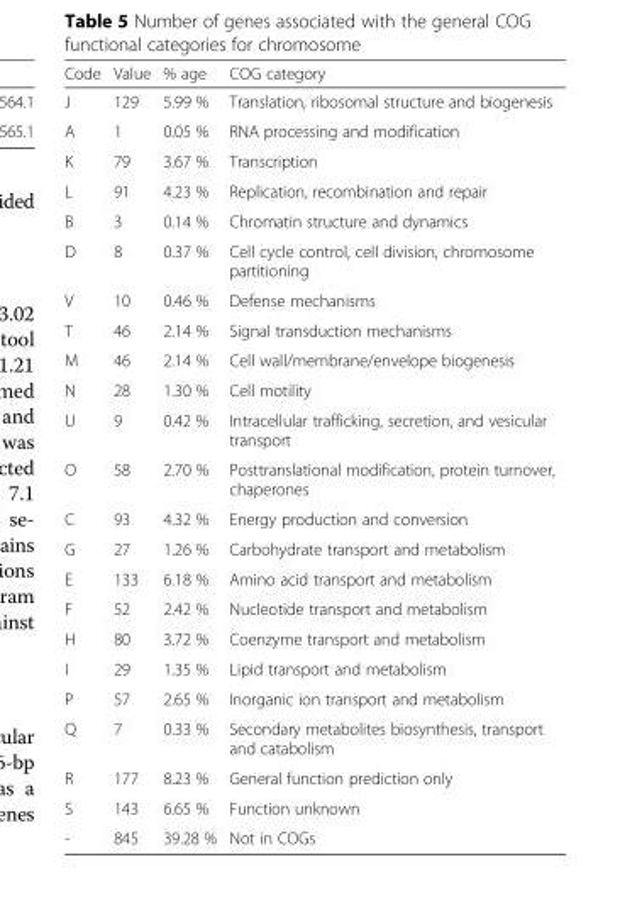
<table><thead><tr><td>Code</td><td>Value</td><td>% age</td><td>COG category</td></tr></thead><tbody><tr><td>J</td><td>129</td><td>5.99 %</td><td>Translation, ribosomal structure and biogenesis</td></tr><tr><td>A</td><td>1</td><td>0.05 %</td><td>RNA processing and modification</td></tr><tr><td>K</td><td>79</td><td>3.67 %</td><td>Transcription</td></tr><tr><td>L</td><td>91</td><td>4.23 %</td><td>Replication, recombination and repair</td></tr><tr><td>B</td><td>3</td><td>0.14 %</td><td>Chromatin structure and dynamics</td></tr><tr><td>D</td><td>8</td><td>0.37 %</td><td>Cell cycle control, cell division, chromosome partitioning</td></tr><tr><td>V</td><td>10</td><td>0.46 %</td><td>Defense mechanisms</td></tr><tr><td>T</td><td>46</td><td>2.14 %</td><td>Signal transduction mechanisms</td></tr><tr><td>M</td><td>46</td><td>2.14 %</td><td>Cell wall/membrane/envelope biogenesis</td></tr><tr><td>N</td><td>28</td><td>1.30 %</td><td>Cell motility</td></tr><tr><td>U</td><td>9</td><td>0.42 %</td><td>Intracellular trafficking, secretion, and vesicular transport</td></tr><tr><td>O</td><td>58</td><td>2.70 %</td><td>Posttranslational modification, protein turnover, chaperones</td></tr><tr><td>C</td><td>93</td><td>4.32 %</td><td>Energy production and conversion</td></tr><tr><td>G</td><td>27</td><td>1.26 %</td><td>Carbohydrate transport and metabolism</td></tr><tr><td>E</td><td>133</td><td>6.18 %</td><td>Amino acid transport and metabolism</td></tr><tr><td>F</td><td>52</td><td>2.42 %</td><td>Nucleotide transport and metabolism</td></tr><tr><td>H</td><td>80</td><td>3.72 %</td><td>Coenzyme transport and metabolism</td></tr><tr><td>I</td><td>29</td><td>1.35 %</td><td>Lipid transport and metabolism</td></tr><tr><td>P</td><td>57</td><td>2.65 %</td><td>Inorganic ion transport and metabolism</td></tr><tr><td>Q</td><td>7</td><td>0.33 %</td><td>Secondary metabolites biosynthesis, transport and catabolism</td></tr><tr><td>R</td><td>177</td><td>8.23 %</td><td>General function prediction only</td></tr><tr><td>S</td><td>143</td><td>6.65 %</td><td>Function unknown</td></tr><tr><td>-</td><td>845</td><td>39.28 %</td><td>Not in COGs</td></tr></tbody></table>